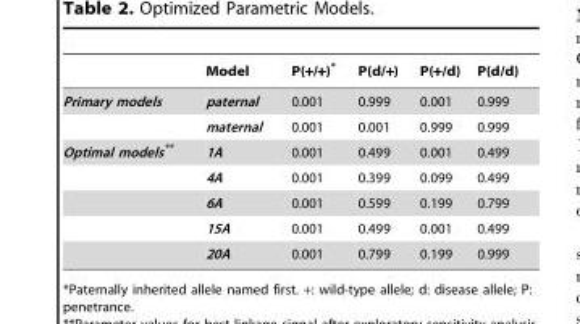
<table><thead><tr><td></td><td>Model</td><td>P(+/+)*</td><td>P(d/+)</td><td>P(+/d)</td><td>P(d/d)</td></tr></thead><tbody><tr><td rowspan="2">Primary models</td><td>paternal</td><td>0.001</td><td>0.999</td><td>0.001</td><td>0.999</td></tr><tr><td>maternal</td><td>0.001</td><td>0.001</td><td>0.999</td><td>0.999</td></tr><tr><td rowspan="5">Optimal models**</td><td>1A</td><td>0.001</td><td>0.499</td><td>0.001</td><td>0.499</td></tr><tr><td>4A</td><td>0.001</td><td>0.399</td><td>0.099</td><td>0.499</td></tr><tr><td>6A</td><td>0.001</td><td>0.599</td><td>0.199</td><td>0.799</td></tr><tr><td>15A</td><td>0.001</td><td>0.499</td><td>0.001</td><td>0.499</td></tr><tr><td>20A</td><td>0.001</td><td>0.799</td><td>0.199</td><td>0.999</td></tr></tbody></table>